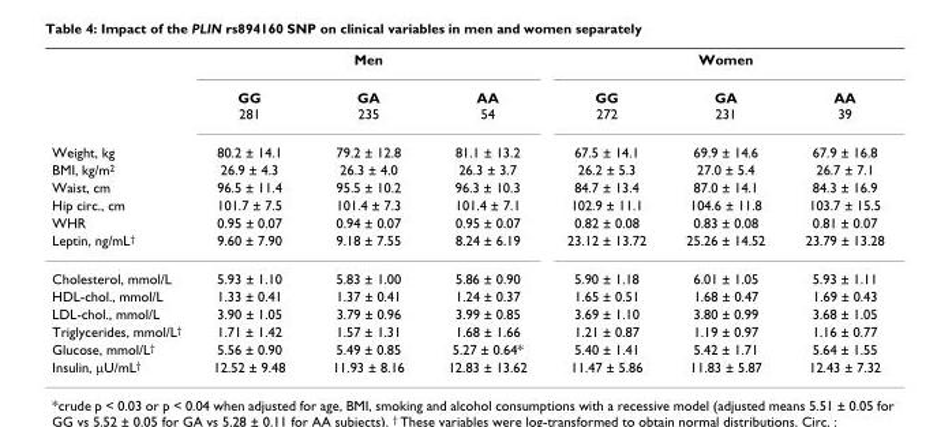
<table><thead><tr><td rowspan="2"></td><td colspan="3">Men</td><td colspan="3">Women</td></tr><tr><td>GG 281</td><td>GA 235</td><td>AA 54</td><td>GG 272</td><td>GA 231</td><td>AA 39</td></tr></thead><tbody><tr><td>Weight, kg</td><td>80.2 ± 14.1</td><td>79.2 ± 12.8</td><td>81.1 ± 13.2</td><td>67.5 ± 14.1</td><td>69.9 ± 14.6</td><td>67.9 ± 16.8</td></tr><tr><td>BMI, kg/m<sup>2</sup></td><td>26.9 ± 4.3</td><td>26.3 ± 4.0</td><td>26.3 ± 3.7</td><td>26.2 ± 5.3</td><td>27.0 ± 5.4</td><td>26.7 ± 7.1</td></tr><tr><td>Waist, cm</td><td>96.5 ± 11.4</td><td>95.5 ± 10.2</td><td>96.3 ± 10.3</td><td>84.7 ± 13.4</td><td>87.0 ± 14.1</td><td>84.3 ± 16.9</td></tr><tr><td>Hip circ., cm</td><td>101.7 ± 7.5</td><td>101.4 ± 7.3</td><td>101.4 ± 7.1</td><td>102.9 ± 11.1</td><td>104.6 ± 11.8</td><td>103.7 ± 15.5</td></tr><tr><td>WHR</td><td>0.95 ± 0.07</td><td>0.94 ± 0.07</td><td>0.95 ± 0.07</td><td>0.82 ± 0.08</td><td>0.83 ± 0.08</td><td>0.81 ± 0.07</td></tr><tr><td>Leptin, ng/mL<sup>†</sup></td><td>9.60 ± 7.90</td><td>9.18 ± 7.55</td><td>8.24 ± 6.19</td><td>23.12 ± 13.72</td><td>25.26 ± 14.52</td><td>23.79 ± 13.28</td></tr><tr><td>Cholesterol, mmol/L</td><td>5.93 ± 1.10</td><td>5.83 ± 1.00</td><td>5.86 ± 0.90</td><td>5.90 ± 1.18</td><td>6.01 ± 1.05</td><td>5.93 ± 1.11</td></tr><tr><td>HDL-chol., mmol/L</td><td>1.33 ± 0.41</td><td>1.37 ± 0.41</td><td>1.24 ± 0.37</td><td>1.65 ± 0.51</td><td>1.68 ± 0.47</td><td>1.69 ± 0.43</td></tr><tr><td>LDL-chol., mmol/L</td><td>3.90 ± 1.05</td><td>3.79 ± 0.96</td><td>3.99 ± 0.85</td><td>3.69 ± 1.10</td><td>3.80 ± 0.99</td><td>3.68 ± 1.05</td></tr><tr><td>Triglycerides, mmol/L<sup>†</sup></td><td>1.71 ± 1.42</td><td>1.57 ± 1.31</td><td>1.68 ± 1.66</td><td>1.21 ± 0.87</td><td>1.19 ± 0.97</td><td>1.16 ± 0.77</td></tr><tr><td>Glucose, mmol/L<sup>†</sup></td><td>5.56 ± 0.90</td><td>5.49 ± 0.85</td><td>5.27 ± 0.64*</td><td>5.40 ± 1.41</td><td>5.42 ± 1.71</td><td>5.64 ± 1.55</td></tr><tr><td>Insulin, µU/mL<sup>†</sup></td><td>12.52 ± 9.48</td><td>11.93 ± 8.16</td><td>12.83 ± 13.62</td><td>11.47 ± 5.86</td><td>11.83 ± 5.87</td><td>12.43 ± 7.32</td></tr></tbody></table>